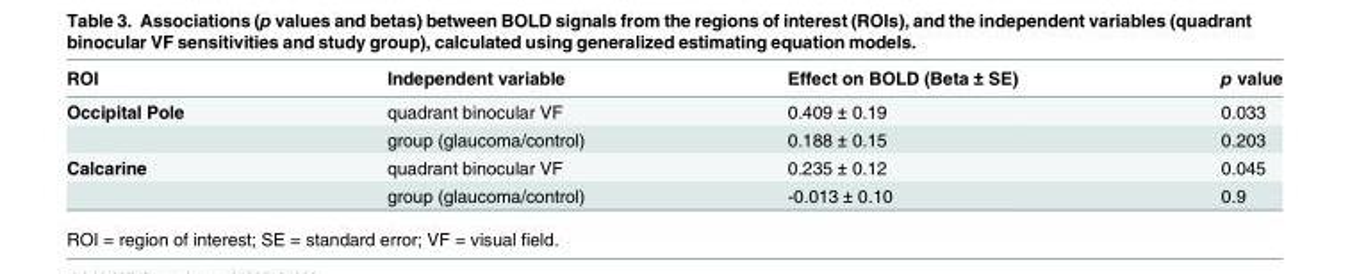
<table><thead><tr><td>ROI</td><td>Independent variable</td><td>Effect on BOLD (Beta ± SE)</td><td>p value</td></tr></thead><tbody><tr><td rowspan="2">Occipital Pole</td><td>quadrant binocular VF</td><td>0.409 ± 0.19</td><td>0.033</td></tr><tr><td>group (glaucoma/control)</td><td>0.188 ± 0.15</td><td>0.203</td></tr><tr><td rowspan="2">Calcarine</td><td>quadrant binocular VF</td><td>0.235 ± 0.12</td><td>0.045</td></tr><tr><td>group (glaucoma/control)</td><td>-0.013 ± 0.10</td><td>0.9</td></tr></tbody></table>